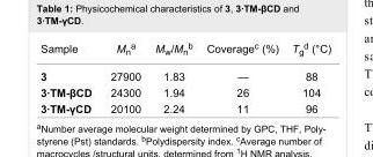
<table><tbody><tr><td>Sample</td><td>M<sub>n</sub><sup>a</sup></td><td>M<sub>w</sub>/M<sub>n</sub><sup>b</sup></td><td>Coverage<sup>c</sup> (%)</td><td>T<sub>g</sub><sup>d</sup> (°C)</td></tr><tr><td>3</td><td>27900</td><td>1.83</td><td>—</td><td>88</td></tr><tr><td>3·TM-βCD</td><td>24300</td><td>1.94</td><td>26</td><td>104</td></tr><tr><td>3·TM-γCD</td><td>20100</td><td>2.24</td><td>11</td><td>96</td></tr></tbody></table>